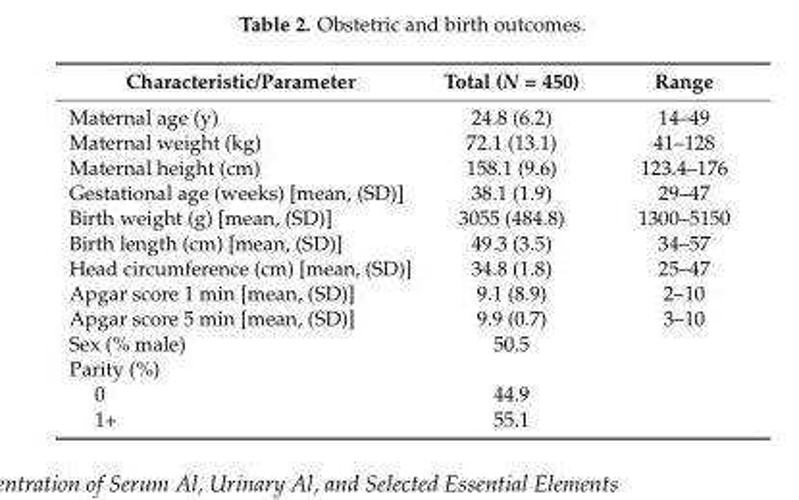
<table><thead><tr><td>Characteristic/Parameter</td><td>Total (N = 450)</td><td>Range</td></tr></thead><tbody><tr><td>Maternal age (y)</td><td>24.8 (6.2)</td><td>14–49</td></tr><tr><td>Maternal weight (kg)</td><td>72.1 (13.1)</td><td>41–128</td></tr><tr><td>Maternal height (cm)</td><td>158.1 (9.6)</td><td>123.4–176</td></tr><tr><td>Gestational age (weeks) [mean, (SD)]</td><td>38.1 (1.9)</td><td>29–47</td></tr><tr><td>Birth weight (g) [mean, (SD)]</td><td>3055 (484.8)</td><td>1300–5150</td></tr><tr><td>Birth length (cm) [mean, (SD)]</td><td>49.3 (3.5)</td><td>34–57</td></tr><tr><td>Head circumference (cm) [mean, (SD)]</td><td>34.8 (1.8)</td><td>25–47</td></tr><tr><td>Apgar score 1 min [mean, (SD)]</td><td>9.1 (8.9)</td><td>2–10</td></tr><tr><td>Apgar score 5 min [mean, (SD)]</td><td>9.9 (0.7)</td><td>3–10</td></tr><tr><td>Sex (% male)</td><td>50.5</td><td></td></tr><tr><td colspan="3">Parity (%)</td></tr><tr><td>0</td><td>44.9</td><td></td></tr><tr><td>1+</td><td>55.1</td><td></td></tr></tbody></table>